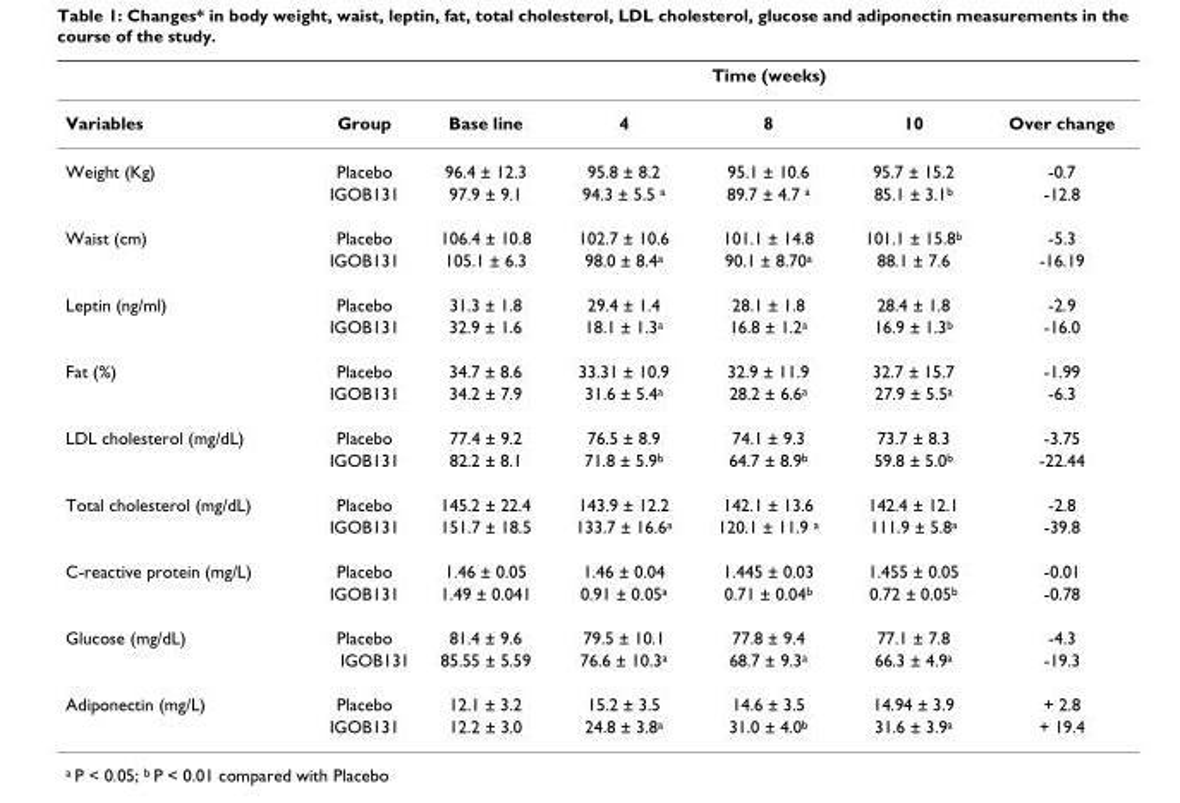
<table><thead><tr><td rowspan="2">Variables</td><td rowspan="2">Group</td><td rowspan="2">Base line</td><td colspan="3">Time (weeks)</td><td rowspan="2">Over change</td></tr><tr><td>4</td><td>8</td><td>10</td></tr></thead><tbody><tr><td rowspan="2">Weight (Kg)</td><td>Placebo</td><td>96.4 ± 12.3</td><td>95.8 ± 8.2</td><td>95.1 ± 10.6</td><td>95.7 ± 15.2</td><td>-0.7</td></tr><tr><td>IGOB131</td><td>97.9 ± 9.1</td><td>94.3 ± 5.5 <sup>a</sup></td><td>89.7 ± 4.7 <sup>a</sup></td><td>85.1 ± 3.1<sup>b</sup></td><td>-12.8</td></tr><tr><td rowspan="2">Waist (cm)</td><td>Placebo</td><td>106.4 ± 10.8</td><td>102.7 ± 10.6</td><td>101.1 ± 14.8</td><td>101.1 ± 15.8<sup>b</sup></td><td>-5.3</td></tr><tr><td>IGOB131</td><td>105.1 ± 6.3</td><td>98.0 ± 8.4<sup>a</sup></td><td>90.1 ± 8.70<sup>a</sup></td><td>88.1 ± 7.6</td><td>-16.19</td></tr><tr><td rowspan="2">Leptin (ng/ml)</td><td>Placebo</td><td>31.3 ± 1.8</td><td>29.4 ± 1.4</td><td>28.1 ± 1.8</td><td>28.4 ± 1.8</td><td>-2.9</td></tr><tr><td>IGOB131</td><td>32.9 ± 1.6</td><td>18.1 ± 1.3<sup>a</sup></td><td>16.8 ± 1.2<sup>a</sup></td><td>16.9 ± 1.3<sup>b</sup></td><td>-16.0</td></tr><tr><td rowspan="2">Fat (%)</td><td>Placebo</td><td>34.7 ± 8.6</td><td>33.31 ± 10.9</td><td>32.9 ± 11.9</td><td>32.7 ± 15.7</td><td>-1.99</td></tr><tr><td>IGOB131</td><td>34.2 ± 7.9</td><td>31.6 ± 5.4<sup>a</sup></td><td>28.2 ± 6.6<sup>a</sup></td><td>27.9 ± 5.5<sup>a</sup></td><td>-6.3</td></tr><tr><td rowspan="2">LDL cholesterol (mg/dL)</td><td>Placebo</td><td>77.4 ± 9.2</td><td>76.5 ± 8.9</td><td>74.1 ± 9.3</td><td>73.7 ± 8.3</td><td>-3.75</td></tr><tr><td>IGOB131</td><td>82.2 ± 8.1</td><td>71.8 ± 5.9<sup>b</sup></td><td>64.7 ± 8.9<sup>b</sup></td><td>59.8 ± 5.0<sup>b</sup></td><td>-22.44</td></tr><tr><td rowspan="2">Total cholesterol (mg/dL)</td><td>Placebo</td><td>145.2 ± 22.4</td><td>143.9 ± 12.2</td><td>142.1 ± 13.6</td><td>142.4 ± 12.1</td><td>-2.8</td></tr><tr><td>IGOB131</td><td>151.7 ± 18.5</td><td>133.7 ± 16.6<sup>a</sup></td><td>120.1 ± 11.9 <sup>a</sup></td><td>111.9 ± 5.8<sup>a</sup></td><td>-39.8</td></tr><tr><td rowspan="2">C-reactive protein (mg/L)</td><td>Placebo</td><td>1.46 ± 0.05</td><td>1.46 ± 0.04</td><td>1.445 ± 0.03</td><td>1.455 ± 0.05</td><td>-0.01</td></tr><tr><td>IGOB131</td><td>1.49 ± 0.041</td><td>0.91 ± 0.05<sup>a</sup></td><td>0.71 ± 0.04<sup>b</sup></td><td>0.72 ± 0.05<sup>b</sup></td><td>-0.78</td></tr><tr><td rowspan="2">Glucose (mg/dL)</td><td>Placebo</td><td>81.4 ± 9.6</td><td>79.5 ± 10.1</td><td>77.8 ± 9.4</td><td>77.1 ± 7.8</td><td>-4.3</td></tr><tr><td>IGOB131</td><td>85.55 ± 5.59</td><td>76.6 ± 10.3<sup>a</sup></td><td>68.7 ± 9.3<sup>a</sup></td><td>66.3 ± 4.9<sup>a</sup></td><td>-19.3</td></tr><tr><td rowspan="2">Adiponectin (mg/L)</td><td>Placebo</td><td>12.1 ± 3.2</td><td>15.2 ± 3.5</td><td>14.6 ± 3.5</td><td>14.94 ± 3.9</td><td>+ 2.8</td></tr><tr><td>IGOB131</td><td>12.2 ± 3.0</td><td>24.8 ± 3.8<sup>a</sup></td><td>31.0 ± 4.0<sup>b</sup></td><td>31.6 ± 3.9<sup>a</sup></td><td>+ 19.4</td></tr></tbody></table>